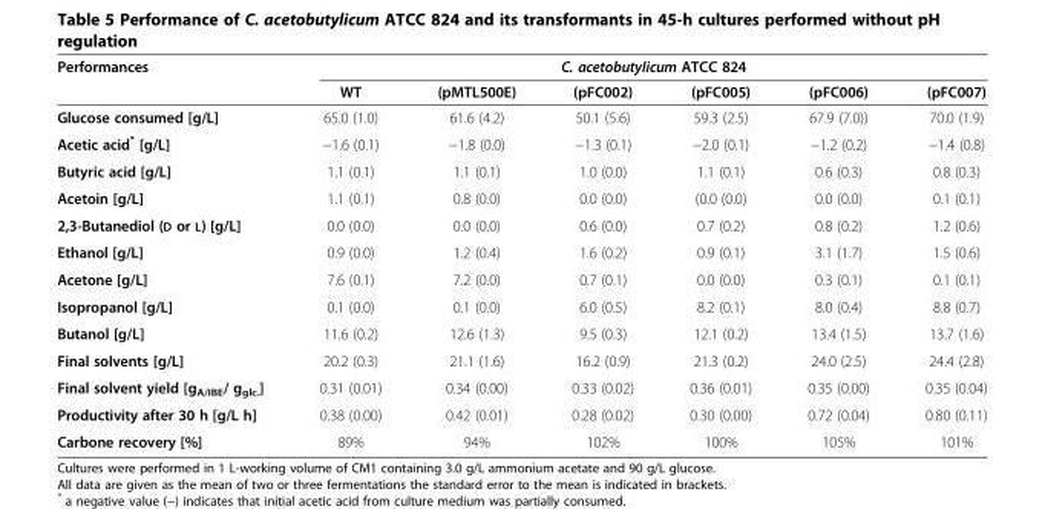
<table><thead><tr><td rowspan="2">Performances</td><td colspan="6">C. acetobutylicum ATCC 824</td></tr><tr><td>WT</td><td>(pMTL500E)</td><td>(pFC002)</td><td>(pFC005)</td><td>(pFC006)</td><td>(pFC007)</td></tr></thead><tbody><tr><td>Glucose consumed [g/L]</td><td>65.0 (1.0)</td><td>61.6 (4.2)</td><td>50.1 (5.6)</td><td>59.3 (2.5)</td><td>67.9 (7.0))</td><td>70.0 (1.9)</td></tr><tr><td>Acetic acid* [g/L]</td><td>−1.6 (0.1)</td><td>−1.8 (0.0)</td><td>−1.3 (0.1)</td><td>−2.0 (0.1)</td><td>−1.2 (0.2)</td><td>−1.4 (0.8)</td></tr><tr><td>Butyric acid [g/L]</td><td>1.1 (0.1)</td><td>1.1 (0.1)</td><td>1.0 (0.0)</td><td>1.1 (0.1)</td><td>0.6 (0.3)</td><td>0.8 (0.3)</td></tr><tr><td>Acetoin [g/L]</td><td>1.1 (0.1)</td><td>0.8 (0.0)</td><td>0.0 (0.0)</td><td>(0.0 (0.0)</td><td>0.0 (0.0)</td><td>0.1 (0.1)</td></tr><tr><td>2,3-Butanediol (D or L) [g/L]</td><td>0.0 (0.0)</td><td>0.0 (0.0)</td><td>0.6 (0.0)</td><td>0.7 (0.2)</td><td>0.8 (0.2)</td><td>1.2 (0.6)</td></tr><tr><td>Ethanol [g/L]</td><td>0.9 (0.0)</td><td>1.2 (0.4)</td><td>1.6 (0.2)</td><td>0.9 (0.1)</td><td>3.1 (1.7)</td><td>1.5 (0.6)</td></tr><tr><td>Acetone [g/L]</td><td>7.6 (0.1)</td><td>7.2 (0.0)</td><td>0.7 (0.1)</td><td>0.0 (0.0)</td><td>0.3 (0.1)</td><td>0.1 (0.1)</td></tr><tr><td>Isopropanol [g/L]</td><td>0.1 (0.0)</td><td>0.1 (0.0)</td><td>6.0 (0.5)</td><td>8.2 (0.1)</td><td>8.0 (0.4)</td><td>8.8 (0.7)</td></tr><tr><td>Butanol [g/L]</td><td>11.6 (0.2)</td><td>12.6 (1.3)</td><td>9.5 (0.3)</td><td>12.1 (0.2)</td><td>13.4 (1.5)</td><td>13.7 (1.6)</td></tr><tr><td>Final solvents [g/L]</td><td>20.2 (0.3)</td><td>21.1 (1.6)</td><td>16.2 (0.9)</td><td>21.3 (0.2)</td><td>24.0 (2.5)</td><td>24.4 (2.8)</td></tr><tr><td>Final solvent yield [g<sub>A/IBE</sub>/ g<sub>glc.</sub>]</td><td>0.31 (0.01)</td><td>0.34 (0.00)</td><td>0.33 (0.02)</td><td>0.36 (0.01)</td><td>0.35 (0.00)</td><td>0.35 (0.04)</td></tr><tr><td>Productivity after 30 h [g/L h]</td><td>0.38 (0.00)</td><td>0.42 (0.01)</td><td>0.28 (0.02)</td><td>0.30 (0.00)</td><td>0.72 (0.04)</td><td>0.80 (0.11)</td></tr><tr><td>Carbone recovery [%]</td><td>89%</td><td>94%</td><td>102%</td><td>100%</td><td>105%</td><td>101%</td></tr></tbody></table>